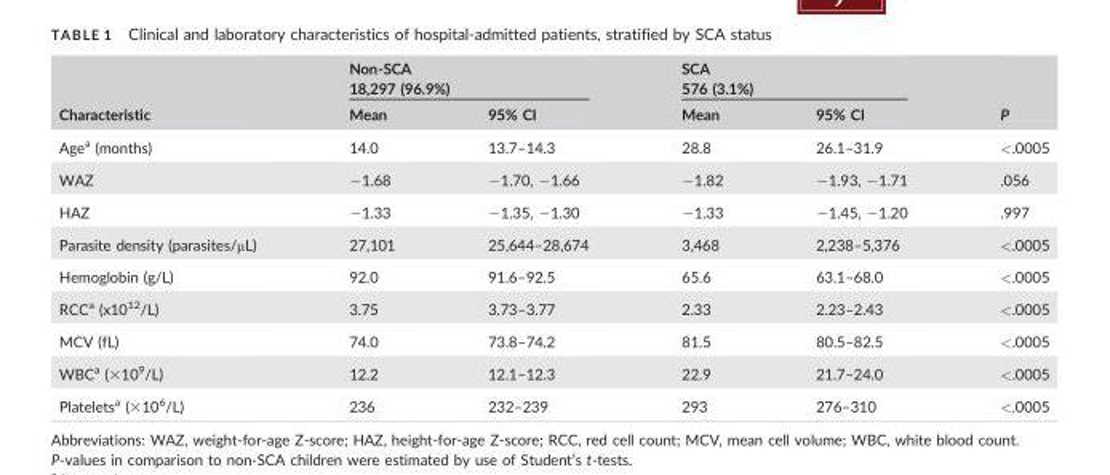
<table><thead><tr><td rowspan="3">Characteristic</td><td rowspan="2" colspan="2">Non-SCA 18,297 (96.9%)</td><td rowspan="2" colspan="2">SCA 576 (3.1%)</td><td rowspan="3">P</td></tr><tr></tr><tr><td>Mean</td><td>95% CI</td><td>Mean</td><td>95% CI</td></tr></thead><tbody><tr><td>Age<sup>a</sup> (months)</td><td>14.0</td><td>13.7–14.3</td><td>28.8</td><td>26.1–31.9</td><td>&lt;.0005</td></tr><tr><td>WAZ</td><td>−1.68</td><td>−1.70, −1.66</td><td>−1.82</td><td>−1.93, −1.71</td><td>.056</td></tr><tr><td>HAZ</td><td>−1.33</td><td>−1.35, −1.30</td><td>−1.33</td><td>−1.45, −1.20</td><td>.997</td></tr><tr><td>Parasite density (parasites/μL)</td><td>27,101</td><td>25,644–28,674</td><td>3,468</td><td>2,238–5,376</td><td>&lt;.0005</td></tr><tr><td>Hemoglobin (g/L)</td><td>92.0</td><td>91.6–92.5</td><td>65.6</td><td>63.1–68.0</td><td>&lt;.0005</td></tr><tr><td>RCC<sup>a</sup> (x10<sup>12</sup>/L)</td><td>3.75</td><td>3.73–3.77</td><td>2.33</td><td>2.23–2.43</td><td>&lt;.0005</td></tr><tr><td>MCV (fL)</td><td>74.0</td><td>73.8–74.2</td><td>81.5</td><td>80.5–82.5</td><td>&lt;.0005</td></tr><tr><td>WBC<sup>a</sup> (×10<sup>9</sup>/L)</td><td>12.2</td><td>12.1–12.3</td><td>22.9</td><td>21.7–24.0</td><td>&lt;.0005</td></tr><tr><td>Platelets<sup>a</sup> (×10<sup>6</sup>/L)</td><td>236</td><td>232–239</td><td>293</td><td>276–310</td><td>&lt;.0005</td></tr></tbody></table>